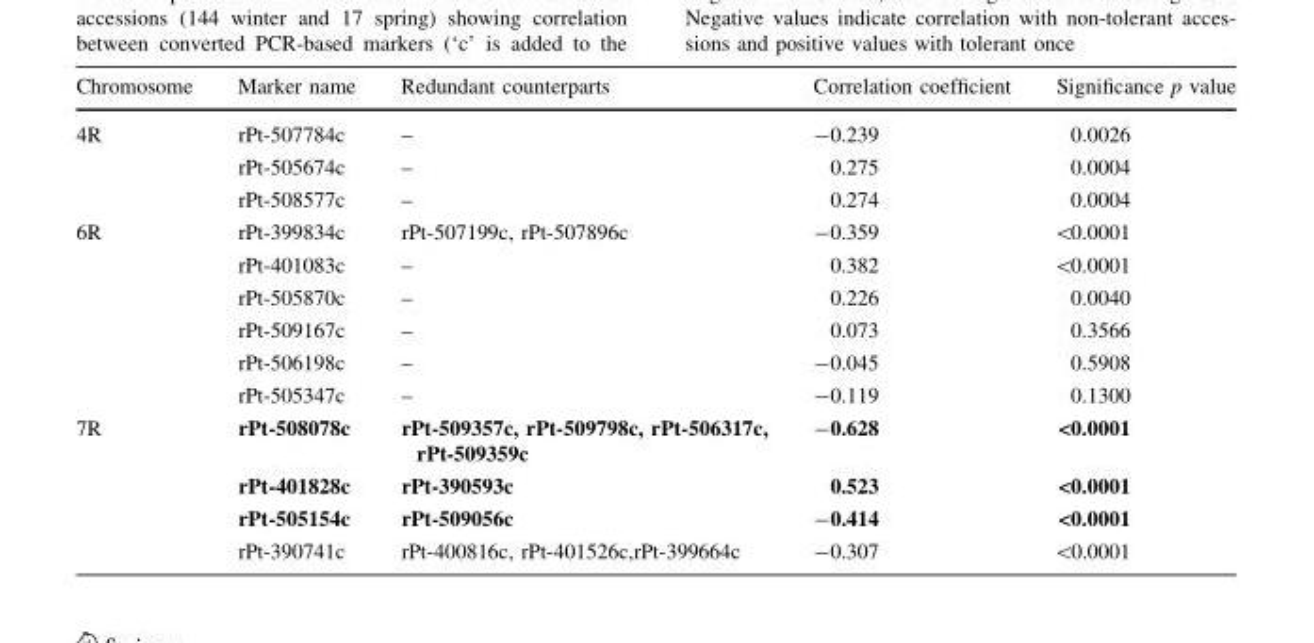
<table><thead><tr><td>Chromosome</td><td>Marker name</td><td>Redundant counterparts</td><td>Correlation coefficient</td><td>Significance p value</td></tr></thead><tbody><tr><td rowspan="3">4R</td><td>rPt-507784c</td><td>–</td><td>-0.239</td><td>0.0026</td></tr><tr><td>rPt-505674c</td><td>–</td><td>0.275</td><td>0.0004</td></tr><tr><td>rPt-508577c</td><td>–</td><td>0.274</td><td>0.0004</td></tr><tr><td rowspan="6">6R</td><td>rPt-399834c</td><td>rPt-507199c, rPt-507896c</td><td>-0.359</td><td>&lt;0.0001</td></tr><tr><td>rPt-401083c</td><td>–</td><td>0.382</td><td>&lt;0.0001</td></tr><tr><td>rPt-505870c</td><td>–</td><td>0.226</td><td>0.0040</td></tr><tr><td>rPt-509167c</td><td>–</td><td>0.073</td><td>0.3566</td></tr><tr><td>rPt-506198c</td><td>–</td><td>-0.045</td><td>0.5908</td></tr><tr><td>rPt-505347c</td><td>–</td><td>-0.119</td><td>0.1300</td></tr><tr><td rowspan="4">7R</td><td>rPt-508078c</td><td>rPt-509357c, rPt-509798c, rPt-506317c, rPt-509359c</td><td>-0.628</td><td>&lt;0.0001</td></tr><tr><td>rPt-401828c</td><td>rPt-390593c</td><td>0.523</td><td>&lt;0.0001</td></tr><tr><td>rPt-505154c</td><td>rPt-509056c</td><td>-0.414</td><td>&lt;0.0001</td></tr><tr><td>rPt-390741c</td><td>rPt-400816c, rPt-401526c,rPt-399664c</td><td>-0.307</td><td>&lt;0.0001</td></tr></tbody></table>